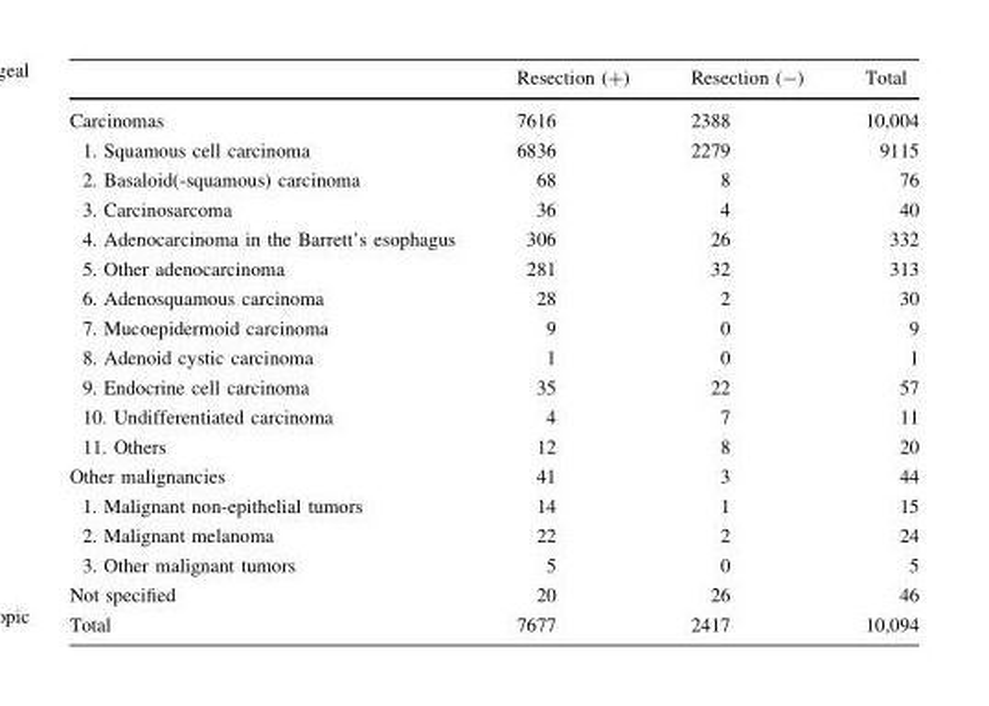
<table><thead><tr><td></td><td>Resection (+)</td><td>Resection (-)</td><td>Total</td></tr></thead><tbody><tr><td>Carcinomas</td><td>7616</td><td>2388</td><td>10,004</td></tr><tr><td>1. Squamous cell carcinoma</td><td>6836</td><td>2279</td><td>9115</td></tr><tr><td>2. Basaloid(-squamous) carcinoma</td><td>68</td><td>8</td><td>76</td></tr><tr><td>3. Carcinosarcoma</td><td>36</td><td>4</td><td>40</td></tr><tr><td>4. Adenocarcinoma in the Barrett’s esophagus</td><td>306</td><td>26</td><td>332</td></tr><tr><td>5. Other adenocarcinoma</td><td>281</td><td>32</td><td>313</td></tr><tr><td>6. Adenosquamous carcinoma</td><td>28</td><td>2</td><td>30</td></tr><tr><td>7. Mucoepidermoid carcinoma</td><td>9</td><td>0</td><td>9</td></tr><tr><td>8. Adenoid cystic carcinoma</td><td>1</td><td>0</td><td>1</td></tr><tr><td>9. Endocrine cell carcinoma</td><td>35</td><td>22</td><td>57</td></tr><tr><td>10. Undifferentiated carcinoma</td><td>4</td><td>7</td><td>11</td></tr><tr><td>11. Others</td><td>12</td><td>8</td><td>20</td></tr><tr><td>Other malignancies</td><td>41</td><td>3</td><td>44</td></tr><tr><td>1. Malignant non-epithelial tumors</td><td>14</td><td>1</td><td>15</td></tr><tr><td>2. Malignant melanoma</td><td>22</td><td>2</td><td>24</td></tr><tr><td>3. Other malignant tumors</td><td>5</td><td>0</td><td>5</td></tr><tr><td>Not specified</td><td>20</td><td>26</td><td>46</td></tr><tr><td>Total</td><td>7677</td><td>2417</td><td>10,094</td></tr></tbody></table>